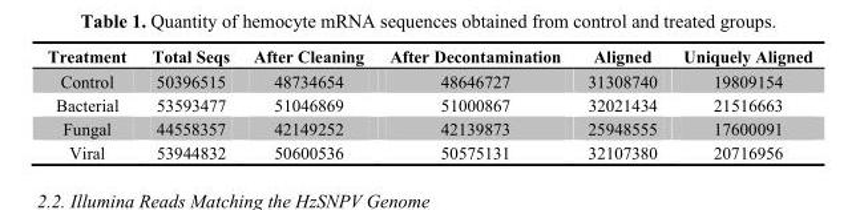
<table><thead><tr><td>Treatment</td><td>Total Seqs</td><td>After Cleaning</td><td>After Decontamination</td><td>Aligned</td><td>Uniquely Aligned</td></tr></thead><tbody><tr><td>Control</td><td>50396515</td><td>48734654</td><td>48646727</td><td>31308740</td><td>19809154</td></tr><tr><td>Bacterial</td><td>53593477</td><td>51046869</td><td>51000867</td><td>32021434</td><td>21516663</td></tr><tr><td>Fungal</td><td>44558357</td><td>42149252</td><td>42139873</td><td>25948555</td><td>17600091</td></tr><tr><td>Viral</td><td>53944832</td><td>50600536</td><td>50575131</td><td>32107380</td><td>20716956</td></tr></tbody></table>